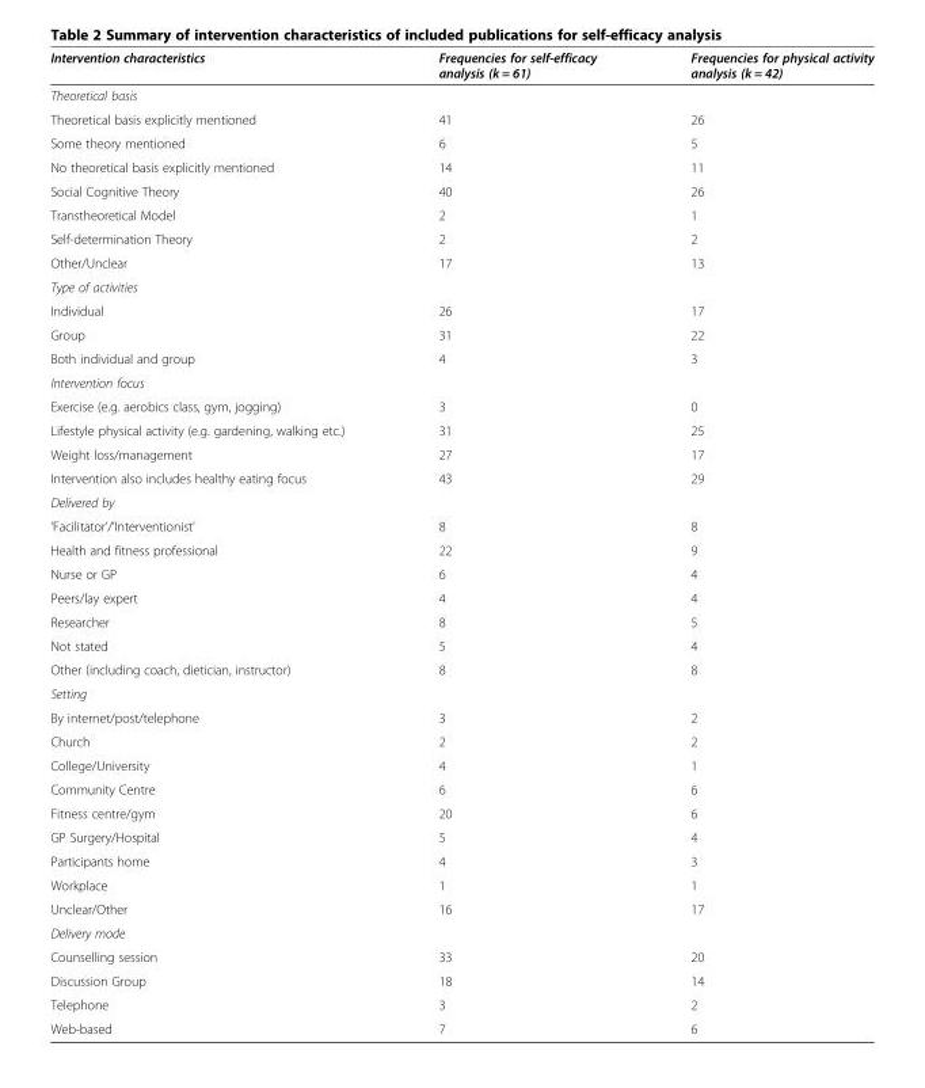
<table><thead><tr><td>Intervention characteristics</td><td>Frequencies for self-efficacy analysis (k = 61)</td><td>Frequencies for physical activity analysis (k = 42)</td></tr></thead><tbody><tr><td colspan="3">Theoretical basis</td></tr><tr><td>Theoretical basis explicitly mentioned</td><td>41</td><td>26</td></tr><tr><td>Some theory mentioned</td><td>6</td><td>5</td></tr><tr><td>No theoretical basis explicitly mentioned</td><td>14</td><td>11</td></tr><tr><td>Social Cognitive Theory</td><td>40</td><td>26</td></tr><tr><td>Transtheoretical Model</td><td>2</td><td>1</td></tr><tr><td>Self-determination Theory</td><td>2</td><td>2</td></tr><tr><td>Other/Unclear</td><td>17</td><td>13</td></tr><tr><td colspan="3">Type of activities</td></tr><tr><td>Individual</td><td>26</td><td>17</td></tr><tr><td>Group</td><td>31</td><td>22</td></tr><tr><td>Both individual and group</td><td>4</td><td>3</td></tr><tr><td colspan="3">Intervention focus</td></tr><tr><td>Exercise (e.g. aerobics class, gym, jogging)</td><td>3</td><td>0</td></tr><tr><td>Lifestyle physical activity (e.g. gardening, walking etc.)</td><td>31</td><td>25</td></tr><tr><td>Weight loss/management</td><td>27</td><td>17</td></tr><tr><td>Intervention also includes healthy eating focus</td><td>43</td><td>29</td></tr><tr><td colspan="3">Delivered by</td></tr><tr><td>‘Facilitator’/’Interventionist’</td><td>8</td><td>8</td></tr><tr><td>Health and fitness professional</td><td>22</td><td>9</td></tr><tr><td>Nurse or GP</td><td>6</td><td>4</td></tr><tr><td>Peers/lay expert</td><td>4</td><td>4</td></tr><tr><td>Researcher</td><td>8</td><td>5</td></tr><tr><td>Not stated</td><td>5</td><td>4</td></tr><tr><td>Other (including coach, dietician, instructor)</td><td>8</td><td>8</td></tr><tr><td colspan="3">Setting</td></tr><tr><td>By internet/post/telephone</td><td>3</td><td>2</td></tr><tr><td>Church</td><td>2</td><td>2</td></tr><tr><td>College/University</td><td>4</td><td>1</td></tr><tr><td>Community Centre</td><td>6</td><td>6</td></tr><tr><td>Fitness centre/gym</td><td>20</td><td>6</td></tr><tr><td>GP Surgery/Hospital</td><td>5</td><td>4</td></tr><tr><td>Participants home</td><td>4</td><td>3</td></tr><tr><td>Workplace</td><td>1</td><td>1</td></tr><tr><td>Unclear/Other</td><td>16</td><td>17</td></tr><tr><td colspan="3">Delivery mode</td></tr><tr><td>Counselling session</td><td>33</td><td>20</td></tr><tr><td>Discussion Group</td><td>18</td><td>14</td></tr><tr><td>Telephone</td><td>3</td><td>2</td></tr><tr><td>Web-based</td><td>7</td><td>6</td></tr></tbody></table>